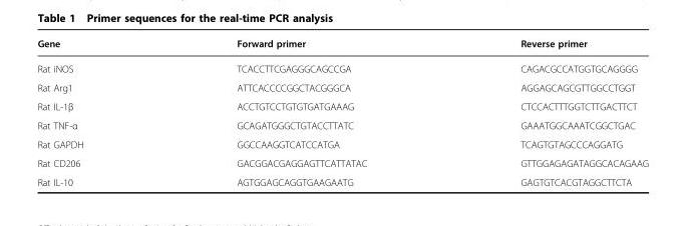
<table><thead><tr><td>Gene</td><td>Forward primer</td><td>Reverse primer</td></tr></thead><tbody><tr><td>Rat iNOS</td><td>TCACCTTCGAGGGCAGCCGA</td><td>CAGACGCCATGGTGCAGGGG</td></tr><tr><td>Rat Arg1</td><td>ATTCACCCCGGCTACGGGCA</td><td>AGGAGCAGCGTTGGCCTGGT</td></tr><tr><td>Rat IL-1β</td><td>ACCTGTCCTGTGTGATGAAAG</td><td>CTCCACTTTGGTCTTGACTTCT</td></tr><tr><td>Rat TNF-α</td><td>GCAGATGGGCTGTACCTTATC</td><td>GAAATGGCAAATCGGCTGAC</td></tr><tr><td>Rat GAPDH</td><td>GGCCAAGGTCATCCATGA</td><td>TCAGTGTAGCCCAGGATG</td></tr><tr><td>Rat CD206</td><td>GACGGACGAGGAGTTCATTATAC</td><td>GTTGGAGAGATAGGCACAGAAG</td></tr><tr><td>Rat IL-10</td><td>AGTGGAGCAGGTGAAGAATG</td><td>GAGTGTCACGTAGGCTTCTA</td></tr></tbody></table>